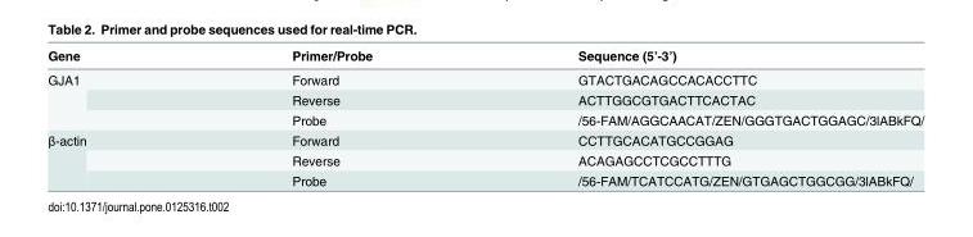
<table><thead><tr><td>Gene</td><td>Primer/Probe</td><td>Sequence (5’-3’)</td></tr></thead><tbody><tr><td rowspan="3">GJA1</td><td>Forward</td><td>GTACTGACAGCCACACCTTC</td></tr><tr><td>Reverse</td><td>ACTTGGCGTGACTTCACTAC</td></tr><tr><td>Probe</td><td>/56-FAM/AGGCAACAT/ZEN/GGGTGACTGGAGC/3lABkFQ/</td></tr><tr><td rowspan="3">β-actin</td><td>Forward</td><td>CCTTGCACATGCCGGAG</td></tr><tr><td>Reverse</td><td>ACAGAGCCTCGCCTTTG</td></tr><tr><td>Probe</td><td>/56-FAM/TCATCCATG/ZEN/GTGAGCTGGCGG/3lABkFQ/</td></tr></tbody></table>